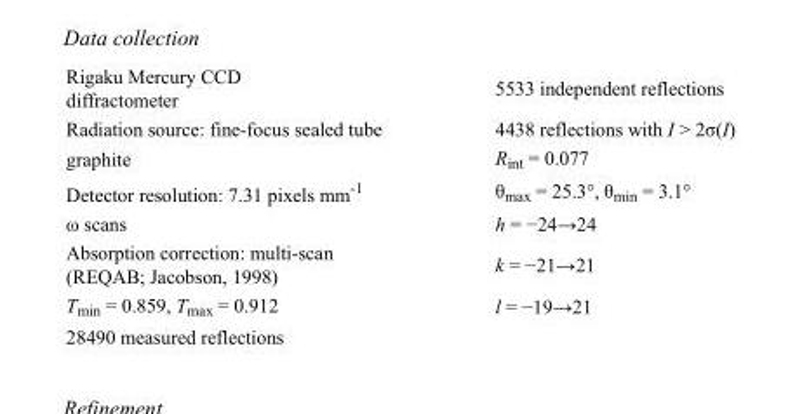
<table><tbody><tr><td>Rigaku Mercury CCD diffractometer</td><td>5533 independent reflections</td></tr><tr><td>Radiation source: fine-focus sealed tube</td><td>4438 reflections with I &gt; 2σ(I)</td></tr><tr><td>graphite</td><td>R<sub>int</sub> = 0.077</td></tr><tr><td>Detector resolution: 7.31 pixels mm<sup>-1</sup></td><td>θ<sub>max</sub> = 25.3°, θ<sub>min</sub> = 3.1°</td></tr><tr><td>ω scans</td><td>h = −24→24</td></tr><tr><td>Absorption correction: multi-scan (REQAB; Jacobson, 1998)</td><td>k = −21→21</td></tr><tr><td>T<sub>min</sub> = 0.859, T<sub>max</sub> = 0.912</td><td>l = −19→21</td></tr><tr><td>28490 measured reflections</td><td></td></tr></tbody></table>